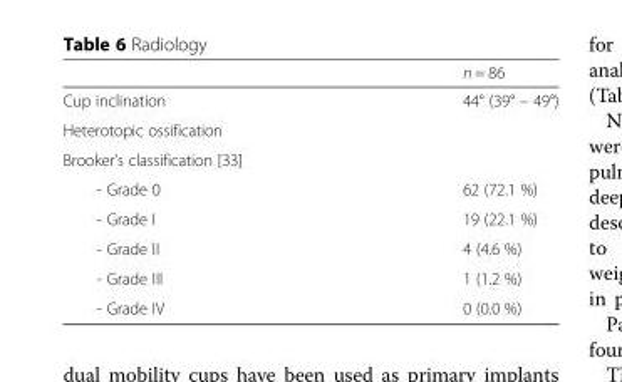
<table><thead><tr><td></td><td>n = 86</td></tr></thead><tbody><tr><td>Cup inclination</td><td>44° (39° – 49°)</td></tr><tr><td colspan="2">Heterotopic ossification</td></tr><tr><td colspan="2">Brooker’s classification [33]</td></tr><tr><td>- Grade 0</td><td>62 (72.1 %)</td></tr><tr><td>- Grade I</td><td>19 (22.1 %)</td></tr><tr><td>- Grade II</td><td>4 (4.6 %)</td></tr><tr><td>- Grade III</td><td>1 (1.2 %)</td></tr><tr><td>- Grade IV</td><td>0 (0.0 %)</td></tr></tbody></table>